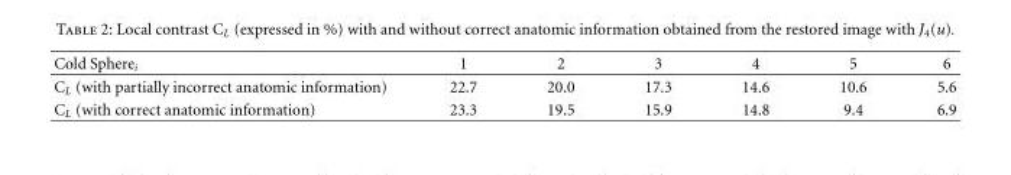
<table><thead><tr><td>Cold Sphere<sub>i</sub></td><td>1</td><td>2</td><td>3</td><td>4</td><td>5</td><td>6</td></tr></thead><tbody><tr><td>C<sub>L</sub> (with partially incorrect anatomic information)</td><td>22.7</td><td>20.0</td><td>17.3</td><td>14.6</td><td>10.6</td><td>5.6</td></tr><tr><td>C<sub>L</sub> (with correct anatomic information)</td><td>23.3</td><td>19.5</td><td>15.9</td><td>14.8</td><td>9.4</td><td>6.9</td></tr></tbody></table>